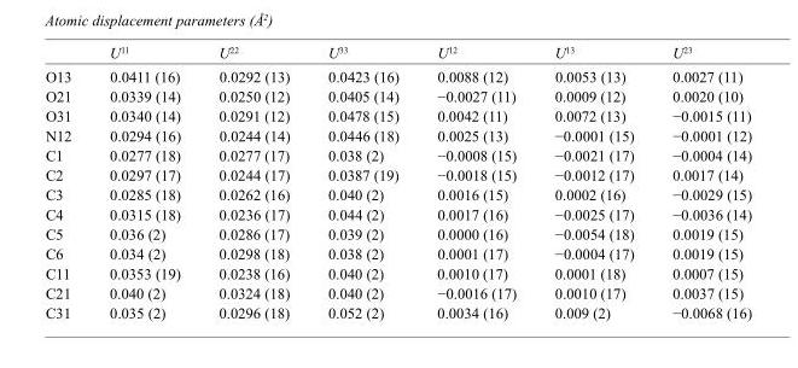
<table><thead><tr><td></td><td>U<sup>11</sup></td><td>U<sup>22</sup></td><td>U<sup>33</sup></td><td>U<sup>12</sup></td><td>U<sup>13</sup></td><td>U<sup>23</sup></td></tr></thead><tbody><tr><td>O13</td><td>0.0411 (16)</td><td>0.0292 (13)</td><td>0.0423 (16)</td><td>0.0088 (12)</td><td>0.0053 (13)</td><td>0.0027 (11)</td></tr><tr><td>O21</td><td>0.0339 (14)</td><td>0.0250 (12)</td><td>0.0405 (14)</td><td>−0.0027 (11)</td><td>0.0009 (12)</td><td>0.0020 (10)</td></tr><tr><td>O31</td><td>0.0340 (14)</td><td>0.0291 (12)</td><td>0.0478 (15)</td><td>0.0042 (11)</td><td>0.0072 (13)</td><td>−0.0015 (11)</td></tr><tr><td>N12</td><td>0.0294 (16)</td><td>0.0244 (14)</td><td>0.0446 (18)</td><td>0.0025 (13)</td><td>−0.0001 (15)</td><td>−0.0001 (12)</td></tr><tr><td>C1</td><td>0.0277 (18)</td><td>0.0277 (17)</td><td>0.038 (2)</td><td>−0.0008 (15)</td><td>−0.0021 (17)</td><td>−0.0004 (14)</td></tr><tr><td>C2</td><td>0.0297 (17)</td><td>0.0244 (17)</td><td>0.0387 (19)</td><td>−0.0018 (15)</td><td>−0.0012 (17)</td><td>0.0017 (14)</td></tr><tr><td>C3</td><td>0.0285 (18)</td><td>0.0262 (16)</td><td>0.040 (2)</td><td>0.0016 (15)</td><td>0.0002 (16)</td><td>−0.0029 (15)</td></tr><tr><td>C4</td><td>0.0315 (18)</td><td>0.0236 (17)</td><td>0.044 (2)</td><td>0.0017 (16)</td><td>−0.0025 (17)</td><td>−0.0036 (14)</td></tr><tr><td>C5</td><td>0.036 (2)</td><td>0.0286 (17)</td><td>0.039 (2)</td><td>0.0000 (16)</td><td>−0.0054 (18)</td><td>0.0019 (15)</td></tr><tr><td>C6</td><td>0.034 (2)</td><td>0.0298 (18)</td><td>0.038 (2)</td><td>0.0001 (17)</td><td>−0.0004 (17)</td><td>0.0019 (15)</td></tr><tr><td>C11</td><td>0.0353 (19)</td><td>0.0238 (16)</td><td>0.040 (2)</td><td>0.0010 (17)</td><td>0.0001 (18)</td><td>0.0007 (15)</td></tr><tr><td>C21</td><td>0.040 (2)</td><td>0.0324 (18)</td><td>0.040 (2)</td><td>−0.0016 (17)</td><td>0.0010 (17)</td><td>0.0037 (15)</td></tr><tr><td>C31</td><td>0.035 (2)</td><td>0.0296 (18)</td><td>0.052 (2)</td><td>0.0034 (16)</td><td>0.009 (2)</td><td>−0.0068 (16)</td></tr></tbody></table>